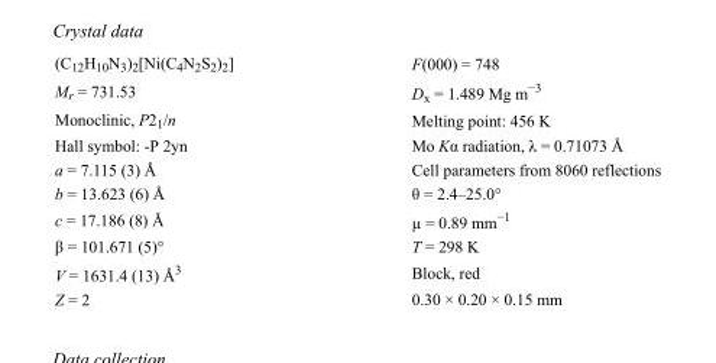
<table><tbody><tr><td>(C<sub>12</sub>H<sub>10</sub>N<sub>3</sub>)<sub>2</sub>[Ni(C<sub>4</sub>N<sub>2</sub>S<sub>2</sub>)<sub>2</sub>]</td><td>F(000) = 748</td></tr><tr><td>M<sub>r</sub> = 731.53</td><td>D<sub>x</sub> = 1.489 Mg m<sup>−3</sup></td></tr><tr><td>Monoclinic, P2<sub>1</sub>/n</td><td>Melting point: 456 K</td></tr><tr><td>Hall symbol: -P 2yn</td><td>Mo Kα radiation, λ = 0.71073 Å</td></tr><tr><td>a = 7.115 (3) Å</td><td>Cell parameters from 8060 reflections</td></tr><tr><td>b = 13.623 (6) Å</td><td>θ = 2.4–25.0°</td></tr><tr><td>c = 17.186 (8) Å</td><td>µ = 0.89 mm<sup>−1</sup></td></tr><tr><td>β = 101.671 (5)°</td><td>T = 298 K</td></tr><tr><td>V = 1631.4 (13) Å<sup>3</sup></td><td>Block, red</td></tr><tr><td>Z = 2</td><td>0.30 × 0.20 × 0.15 mm</td></tr></tbody></table>